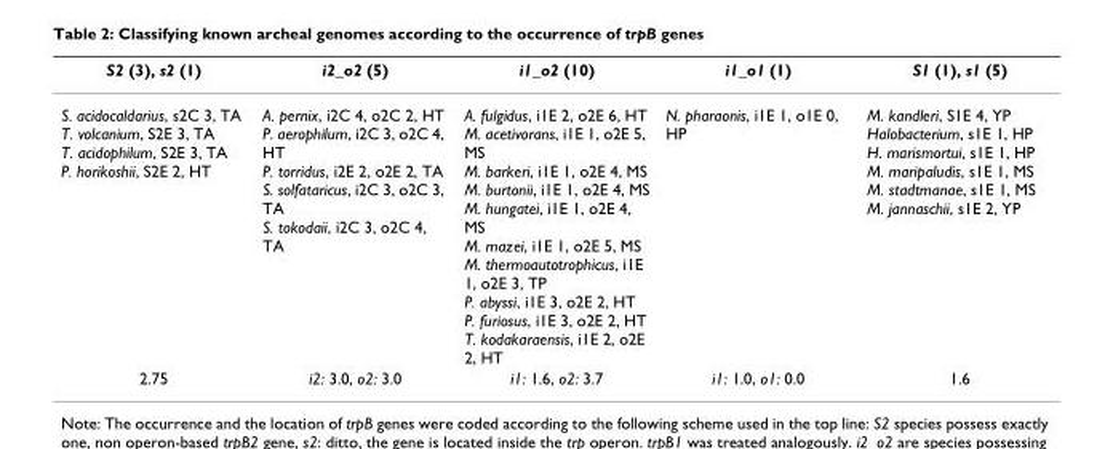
<table><thead><tr><td>S2 (3), s2 (1)</td><td>i2_o2 (5)</td><td>i1_o2 (10)</td><td>i1_o1 (1)</td><td>S1 (1), s1 (5)</td></tr></thead><tbody><tr><td>S. acidocaldarius, s2C 3, TA T. volcanium, S2E 3, TA T. acidophilum, S2E 3, TA P. horikoshii, S2E 2, HT</td><td>A. pernix, i2C 4, o2C 2, HT P. aerophilum, i2C 3, o2C 4, HT P. torridus, i2E 2, o2E 2, TA S. solfataricus, i2C 3, o2C 3, TA S. tokodaii, i2C 3, o2C 4, TA</td><td>A. fulgidus, i1E 2, o2E 6, HT M. acetivorans, i1E 1, o2E 5, MS M. barkeri, i1E 1, o2E 4, MS M. burtonii, i1E 1, o2E 4, MS M. hungatei, i1E 1, o2E 4, MS M. mazei, i1E 1, o2E 5, MS M. thermoautotrophicus, i1E 1, o2E 3, TP P. abyssi, i1E 3, o2E 2, HT P. furiosus, i1E 3, o2E 2, HT T. kodakaraensis, i1E 2, o2E 2, HT</td><td>N. pharaonis, i1E 1, o1E 0, HP</td><td>M. kandleri, S1E 4, YP Halobacterium, s1E 1, HP H. marismortui, s1E 1, HP M. maripaludis, s1E 1, MS M. stadtmanae, s1E 1, MS M. jannaschii, s1E 2, YP</td></tr><tr><td>2.75</td><td>i2: 3.0, o2: 3.0</td><td>i1: 1.6, o2: 3.7</td><td>i1: 1.0, o1: 0.0</td><td>1.6</td></tr></tbody></table>